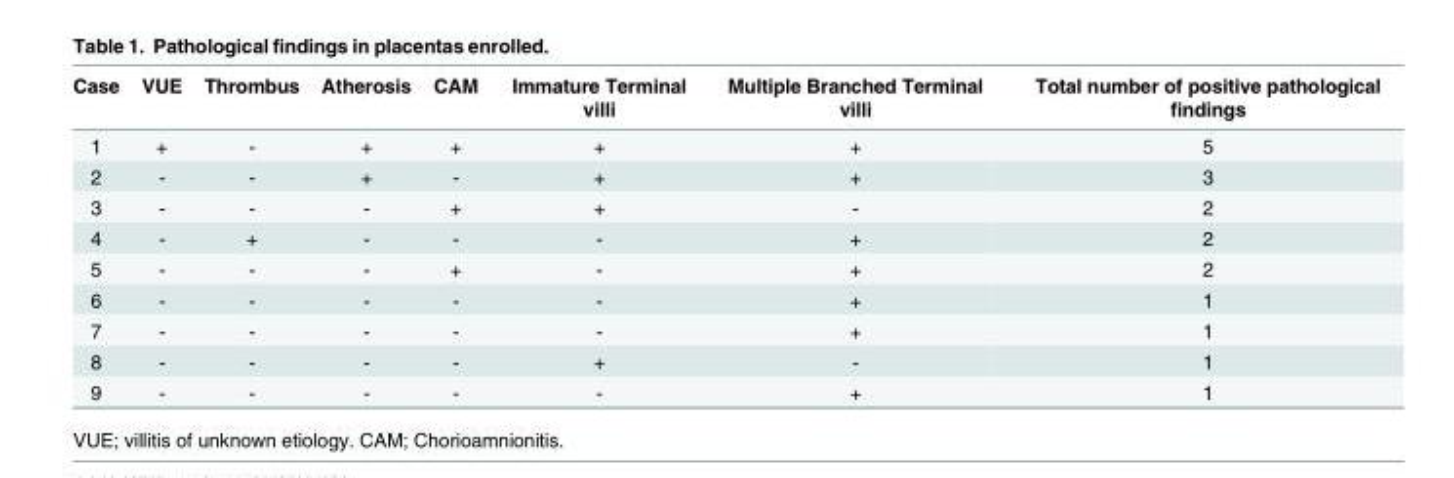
<table><thead><tr><td>Case</td><td>VUE</td><td>Thrombus</td><td>Atherosis</td><td>CAM</td><td>Immature Terminal villi</td><td>Multiple Branched Terminal villi</td><td>Total number of positive pathological findings</td></tr></thead><tbody><tr><td>1</td><td>+</td><td>-</td><td>+</td><td>+</td><td>+</td><td>+</td><td>5</td></tr><tr><td>2</td><td>-</td><td>-</td><td>+</td><td>-</td><td>+</td><td>+</td><td>3</td></tr><tr><td>3</td><td>-</td><td>-</td><td>-</td><td>+</td><td>+</td><td>-</td><td>2</td></tr><tr><td>4</td><td>-</td><td>+</td><td>-</td><td>-</td><td>-</td><td>+</td><td>2</td></tr><tr><td>5</td><td>-</td><td>-</td><td>-</td><td>+</td><td>-</td><td>+</td><td>2</td></tr><tr><td>6</td><td>-</td><td>-</td><td>-</td><td>-</td><td>-</td><td>+</td><td>1</td></tr><tr><td>7</td><td>-</td><td>-</td><td>-</td><td>-</td><td>-</td><td>+</td><td>1</td></tr><tr><td>8</td><td>-</td><td>-</td><td>-</td><td>-</td><td>+</td><td>-</td><td>1</td></tr><tr><td>9</td><td>-</td><td>-</td><td>-</td><td>-</td><td>-</td><td>+</td><td>1</td></tr></tbody></table>